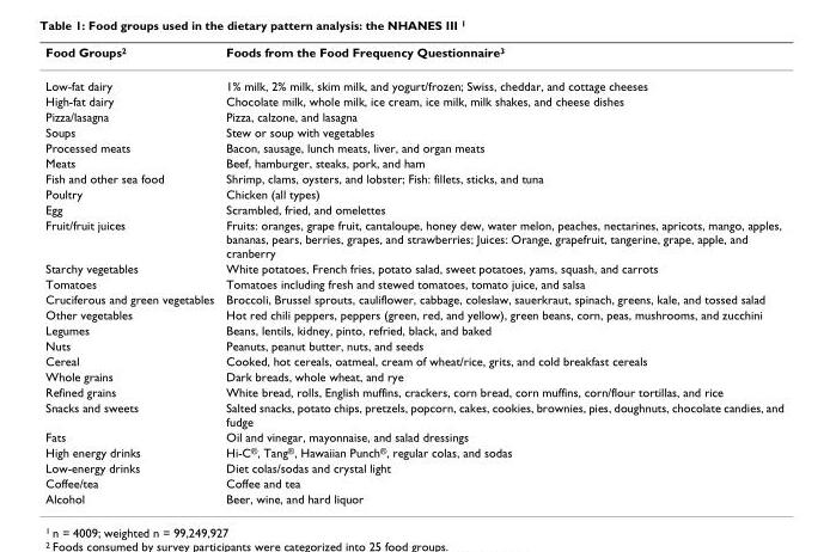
<table><thead><tr><td>Food Groups<sup>2</sup></td><td>Foods from the Food Frequency Questionnaire<sup>3</sup></td></tr></thead><tbody><tr><td>Low-fat dairy</td><td>1% milk, 2% milk, skim milk, and yogurt/frozen; Swiss, cheddar, and cottage cheeses</td></tr><tr><td>High-fat dairy</td><td>Chocolate milk, whole milk, ice cream, ice milk, milk shakes, and cheese dishes</td></tr><tr><td>Pizza/lasagna</td><td>Pizza, calzone, and lasagna</td></tr><tr><td>Soups</td><td>Stew or soup with vegetables</td></tr><tr><td>Processed meats</td><td>Bacon, sausage, lunch meats, liver, and organ meats</td></tr><tr><td>Meats</td><td>Beef, hamburger, steaks, pork, and ham</td></tr><tr><td>Fish and other sea food</td><td>Shrimp, clams, oysters, and lobster; Fish: fillets, sticks, and tuna</td></tr><tr><td>Poultry</td><td>Chicken (all types)</td></tr><tr><td>Egg</td><td>Scrambled, fried, and omelettes</td></tr><tr><td>Fruit/fruit juices</td><td>Fruits: oranges, grape fruit, cantaloupe, honey dew, water melon, peaches, nectarines, apricots, mango, apples, bananas, pears, berries, grapes, and strawberries; Juices: Orange, grapefruit, tangerine, grape, apple, and cranberry</td></tr><tr><td>Starchy vegetables</td><td>White potatoes, French fries, potato salad, sweet potatoes, yams, squash, and carrots</td></tr><tr><td>Tomatoes</td><td>Tomatoes including fresh and stewed tomatoes, tomato juice, and salsa</td></tr><tr><td>Cruciferous and green vegetables</td><td>Broccoli, Brussel sprouts, cauliflower, cabbage, coleslaw, sauerkraut, spinach, greens, kale, and tossed salad</td></tr><tr><td>Other vegetables</td><td>Hot red chili peppers, peppers (green, red, and yellow), green beans, corn, peas, mushrooms, and zucchini</td></tr><tr><td>Legumes</td><td>Beans, lentils, kidney, pinto, refried, black, and baked</td></tr><tr><td>Nuts</td><td>Peanuts, peanut butter, nuts, and seeds</td></tr><tr><td>Cereal</td><td>Cooked, hot cereals, oatmeal, cream of wheat/rice, grits, and cold breakfast cereals</td></tr><tr><td>Whole grains</td><td>Dark breads, whole wheat, and rye</td></tr><tr><td>Refined grains</td><td>White bread, rolls, English muffins, crackers, corn bread, corn muffins, corn/flour tortillas, and rice</td></tr><tr><td>Snacks and sweets</td><td>Salted snacks, potato chips, pretzels, popcorn, cakes, cookies, brownies, pies, doughnuts, chocolate candies, and fudge</td></tr><tr><td>Fats</td><td>Oil and vinegar, mayonnaise, and salad dressings</td></tr><tr><td>High energy drinks</td><td>Hi-C<sup>®</sup>, Tang<sup>®</sup>, Hawaiian Punch<sup>®</sup>, regular colas, and sodas</td></tr><tr><td>Low-energy drinks</td><td>Diet colas/sodas and crystal light</td></tr><tr><td>Coffee/tea</td><td>Coffee and tea</td></tr><tr><td>Alcohol</td><td>Beer, wine, and hard liquor</td></tr></tbody></table>